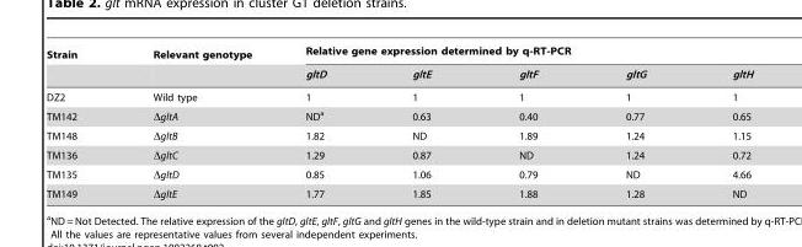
<table><thead><tr><td rowspan="2">Strain</td><td rowspan="2">Relevant genotype</td><td colspan="5">Relative gene expression determined by q-RT-PCR</td></tr><tr><td>gltD</td><td>gltE</td><td>gltF</td><td>gltG</td><td>gltH</td></tr></thead><tbody><tr><td>DZ2</td><td>Wild type</td><td>1</td><td>1</td><td>1</td><td>1</td><td>1</td></tr><tr><td>TM142</td><td>ΔgltA</td><td>ND<sup>a</sup></td><td>0.63</td><td>0.40</td><td>0.77</td><td>0.65</td></tr><tr><td>TM148</td><td>ΔgltB</td><td>1.82</td><td>ND</td><td>1.89</td><td>1.24</td><td>1.15</td></tr><tr><td>TM136</td><td>ΔgltC</td><td>1.29</td><td>0.87</td><td>ND</td><td>1.24</td><td>0.72</td></tr><tr><td>TM135</td><td>ΔgltD</td><td>0.85</td><td>1.06</td><td>0.79</td><td>ND</td><td>4.66</td></tr><tr><td>TM149</td><td>ΔgltE</td><td>1.77</td><td>1.85</td><td>1.88</td><td>1.28</td><td>ND</td></tr></tbody></table>